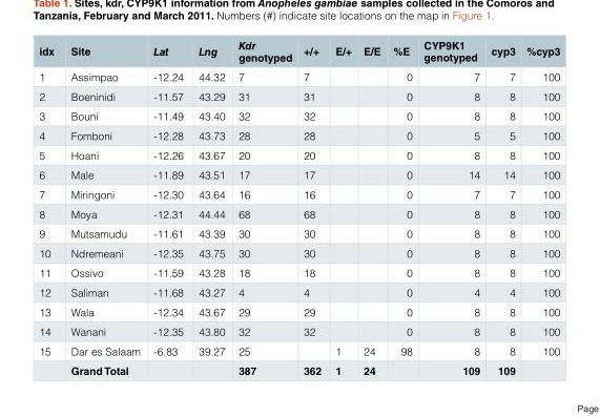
<table><thead><tr><td>idx</td><td>Site</td><td>Lat</td><td>Lng</td><td>Kdr genotyped</td><td>+/+</td><td>E/+</td><td>E/E</td><td>%E</td><td>CYP9K1 genotyped</td><td>cyp3</td><td>%cyp3</td></tr></thead><tbody><tr><td>1</td><td>Assimpao</td><td>-12.24</td><td>44.32</td><td>7</td><td>7</td><td></td><td></td><td>0</td><td>7</td><td>7</td><td>100</td></tr><tr><td>2</td><td>Boeninidi</td><td>-11.57</td><td>43.29</td><td>31</td><td>31</td><td></td><td></td><td>0</td><td>8</td><td>8</td><td>100</td></tr><tr><td>3</td><td>Bouni</td><td>-11.49</td><td>43.40</td><td>32</td><td>32</td><td></td><td></td><td>0</td><td>8</td><td>8</td><td>100</td></tr><tr><td>4</td><td>Fomboni</td><td>-12.28</td><td>43.73</td><td>28</td><td>28</td><td></td><td></td><td>0</td><td>5</td><td>5</td><td>100</td></tr><tr><td>5</td><td>Hoani</td><td>-12.26</td><td>43.67</td><td>20</td><td>20</td><td></td><td></td><td>0</td><td>8</td><td>8</td><td>100</td></tr><tr><td>6</td><td>Male</td><td>-11.89</td><td>43.51</td><td>17</td><td>17</td><td></td><td></td><td>0</td><td>14</td><td>14</td><td>100</td></tr><tr><td>7</td><td>Miringoni</td><td>-12.30</td><td>43.64</td><td>16</td><td>16</td><td></td><td></td><td>0</td><td>7</td><td>7</td><td>100</td></tr><tr><td>8</td><td>Moya</td><td>-12.31</td><td>44.44</td><td>68</td><td>68</td><td></td><td></td><td>0</td><td>8</td><td>8</td><td>100</td></tr><tr><td>9</td><td>Mutsamudu</td><td>-11.61</td><td>43.39</td><td>30</td><td>30</td><td></td><td></td><td>0</td><td>8</td><td>8</td><td>100</td></tr><tr><td>10</td><td>Ndremeani</td><td>-12.35</td><td>43.75</td><td>30</td><td>30</td><td></td><td></td><td>0</td><td>8</td><td>8</td><td>100</td></tr><tr><td>11</td><td>Ossivo</td><td>-11.59</td><td>43.28</td><td>18</td><td>18</td><td></td><td></td><td>0</td><td>8</td><td>8</td><td>100</td></tr><tr><td>12</td><td>Saliman</td><td>-11.68</td><td>43.27</td><td>4</td><td>4</td><td></td><td></td><td>0</td><td>4</td><td>4</td><td>100</td></tr><tr><td>13</td><td>Wala</td><td>-12.34</td><td>43.67</td><td>29</td><td>29</td><td></td><td></td><td>0</td><td>8</td><td>8</td><td>100</td></tr><tr><td>14</td><td>Wanani</td><td>-12.35</td><td>43.80</td><td>32</td><td>32</td><td></td><td></td><td>0</td><td>8</td><td>8</td><td>100</td></tr><tr><td rowspan="2">15</td><td>Dar es Salaam</td><td>-6.83</td><td>39.27</td><td>25</td><td></td><td>1</td><td>24</td><td>98</td><td>8</td><td>8</td><td>100</td></tr><tr><td>Grand Total</td><td></td><td></td><td>387</td><td>362</td><td>1</td><td>24</td><td></td><td>109</td><td>109</td><td></td></tr></tbody></table>